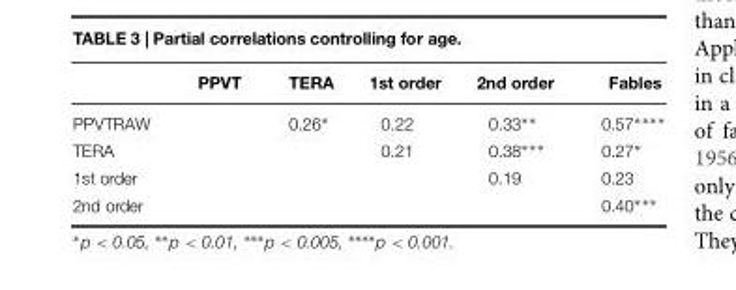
<table><thead><tr><td></td><td>PPVT</td><td>TERA</td><td>1st order</td><td>2nd order</td><td>Fables</td></tr></thead><tbody><tr><td>PPVTRAW</td><td></td><td>0.26∗</td><td>0.22</td><td>0.33∗∗</td><td>0.57∗∗∗∗</td></tr><tr><td>TERA</td><td></td><td></td><td>0.21</td><td>0.38∗∗∗</td><td>0.27∗</td></tr><tr><td>1st order</td><td></td><td></td><td></td><td>0.19</td><td>0.23</td></tr><tr><td>2nd order</td><td></td><td></td><td></td><td></td><td>0.40∗∗∗</td></tr></tbody></table>